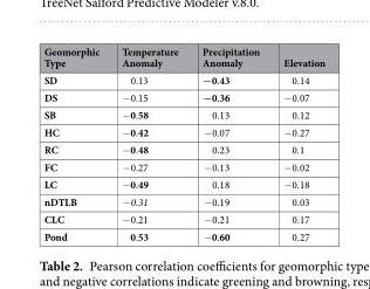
<table><thead><tr><td>Geomorphic Type</td><td>Temperature Anomaly</td><td>Precipitation Anomaly</td><td>Elevation</td></tr></thead><tbody><tr><td>SD</td><td>0.13</td><td>−0.43</td><td>0.14</td></tr><tr><td>DS</td><td>−0.15</td><td>−0.36</td><td>−0.07</td></tr><tr><td>SB</td><td>−0.58</td><td>0.13</td><td>0.12</td></tr><tr><td>HC</td><td>−0.42</td><td>−0.07</td><td>−0.27</td></tr><tr><td>RC</td><td>−0.48</td><td>0.23</td><td>0.1</td></tr><tr><td>FC</td><td>−0.27</td><td>−0.13</td><td>−0.02</td></tr><tr><td>LC</td><td>−0.49</td><td>0.18</td><td>−0.18</td></tr><tr><td>nDTLB</td><td>−0.31</td><td>−0.19</td><td>0.03</td></tr><tr><td>CLC</td><td>−0.21</td><td>−0.21</td><td>0.17</td></tr><tr><td>Pond</td><td>0.53</td><td>−0.60</td><td>0.27</td></tr></tbody></table>